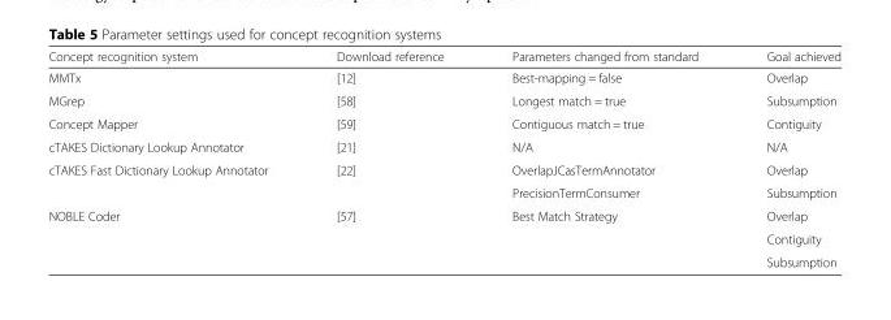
<table><thead><tr><td>Concept recognition system</td><td>Download reference</td><td>Parameters changed from standard</td><td>Goal achieved</td></tr></thead><tbody><tr><td>MMTx</td><td>[12]</td><td>Best-mapping = false</td><td>Overlap</td></tr><tr><td>MGrep</td><td>[58]</td><td>Longest match = true</td><td>Subsumption</td></tr><tr><td>Concept Mapper</td><td>[59]</td><td>Contiguous match = true</td><td>Contiguity</td></tr><tr><td>cTAKES Dictionary Lookup Annotator</td><td>[21]</td><td>N/A</td><td>N/A</td></tr><tr><td rowspan="2">cTAKES Fast Dictionary Lookup Annotator</td><td rowspan="2">[22]</td><td>OverlapJCasTermAnnotator</td><td>Overlap</td></tr><tr><td>PrecisionTermConsumer</td><td>Subsumption</td></tr><tr><td rowspan="3">NOBLE Coder</td><td rowspan="3">[57]</td><td rowspan="3">Best Match Strategy</td><td>Overlap</td></tr><tr><td>Contiguity</td></tr><tr><td>Subsumption</td></tr></tbody></table>